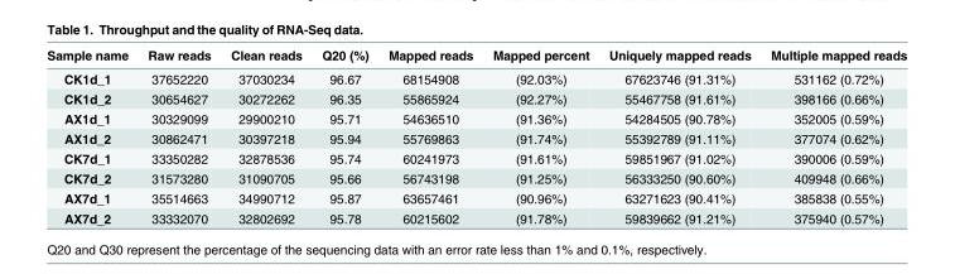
<table><thead><tr><td>Sample name</td><td>Raw reads</td><td>Clean reads</td><td>Q20 (%)</td><td>Mapped reads</td><td>Mapped percent</td><td>Uniquely mapped reads</td><td>Multiple mapped reads</td></tr></thead><tbody><tr><td>CK1d_1</td><td>37652220</td><td>37030234</td><td>96.67</td><td>68154908</td><td>(92.03%)</td><td>67623746 (91.31%)</td><td>531162 (0.72%)</td></tr><tr><td>CK1d_2</td><td>30654627</td><td>30272262</td><td>96.35</td><td>55865924</td><td>(92.27%)</td><td>55467758 (91.61%)</td><td>398166 (0.66%)</td></tr><tr><td>AX1d_1</td><td>30329099</td><td>29900210</td><td>95.71</td><td>54636510</td><td>(91.36%)</td><td>54284505 (90.78%)</td><td>352005 (0.59%)</td></tr><tr><td>AX1d_2</td><td>30862471</td><td>30397218</td><td>95.94</td><td>55769863</td><td>(91.74%)</td><td>55392789 (91.11%)</td><td>377074 (0.62%)</td></tr><tr><td>CK7d_1</td><td>33350282</td><td>32878536</td><td>95.74</td><td>60241973</td><td>(91.61%)</td><td>59851967 (91.02%)</td><td>390006 (0.59%)</td></tr><tr><td>CK7d_2</td><td>31573280</td><td>31090705</td><td>95.66</td><td>56743198</td><td>(91.25%)</td><td>56333250 (90.60%)</td><td>409948 (0.66%)</td></tr><tr><td>AX7d_1</td><td>35514663</td><td>34990712</td><td>95.87</td><td>63657461</td><td>(90.96%)</td><td>63271623 (90.41%)</td><td>385838 (0.55%)</td></tr><tr><td>AX7d_2</td><td>33332070</td><td>32802692</td><td>95.78</td><td>60215602</td><td>(91.78%)</td><td>59839662 (91.21%)</td><td>375940 (0.57%)</td></tr></tbody></table>